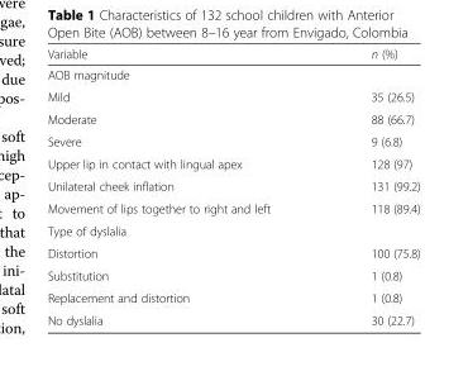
<table><thead><tr><td>Variable</td><td>n (%)</td></tr></thead><tbody><tr><td colspan="2">AOB magnitude</td></tr><tr><td>Mild</td><td>35 (26.5)</td></tr><tr><td>Moderate</td><td>88 (66.7)</td></tr><tr><td>Severe</td><td>9 (6.8)</td></tr><tr><td>Upper lip in contact with lingual apex</td><td>128 (97)</td></tr><tr><td>Unilateral cheek inflation</td><td>131 (99.2)</td></tr><tr><td>Movement of lips together to right and left</td><td>118 (89.4)</td></tr><tr><td colspan="2">Type of dyslalia</td></tr><tr><td>Distortion</td><td>100 (75.8)</td></tr><tr><td>Substitution</td><td>1 (0.8)</td></tr><tr><td>Replacement and distortion</td><td>1 (0.8)</td></tr><tr><td>No dyslalia</td><td>30 (22.7)</td></tr></tbody></table>